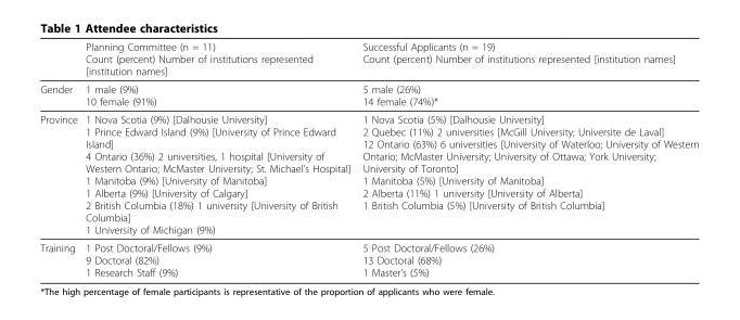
<table><thead><tr><td></td><td>Planning Committee (n = 11) Count (percent) Number of institutions represented [institution names]</td><td>Successful Applicants (n = 19) Count (percent) Number of institutions represented [institution names]</td></tr></thead><tbody><tr><td>Gender</td><td>1 male (9%) 10 female (91%)</td><td>5 male (26%) 14 female (74%)*</td></tr><tr><td>Province</td><td>1 Nova Scotia (9%) [Dalhousie University] 1 Prince Edward Island (9%) [University of Prince Edward Island] 4 Ontario (36%) 2 universities, 1 hospital [University of Western Ontario; McMaster University; St. Michael’s Hospital] 1 Manitoba (9%) [University of Manitoba] 1 Alberta (9%) [University of Calgary] 2 British Columbia (18%) 1 university [University of British Columbia] 1 University of Michigan (9%)</td><td>1 Nova Scotia (5%) [Dalhousie University] 2 Quebec (11%) 2 universities [McGill University; Universite de Laval] 12 Ontario (63%) 6 universities [University of Waterloo; University of Western Ontario; McMaster University; University of Ottawa; York University; University of Toronto] 1 Manitoba (5%) [University of Manitoba] 2 Alberta (11%) 1 university [University of Alberta] 1 British Columbia (5%) [University of British Columbia]</td></tr><tr><td>Training</td><td>1 Post Doctoral/Fellows (9%) 9 Doctoral (82%) 1 Research Staff (9%)</td><td>5 Post Doctoral/Fellows (26%) 13 Doctoral (68%) 1 Master’s (5%)</td></tr></tbody></table>